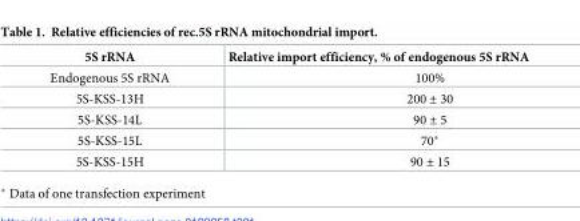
<table><thead><tr><td>5S rRNA</td><td>Relative import efficiency, % of endogenous 5S rRNA</td></tr></thead><tbody><tr><td>Endogenous 5S rRNA</td><td>100%</td></tr><tr><td>5S-KSS-13H</td><td>200 ± 30</td></tr><tr><td>5S-KSS-14L</td><td>90 ± 5</td></tr><tr><td>5S-KSS-15L</td><td>70*</td></tr><tr><td>5S-KSS-15H</td><td>90 ± 15</td></tr></tbody></table>